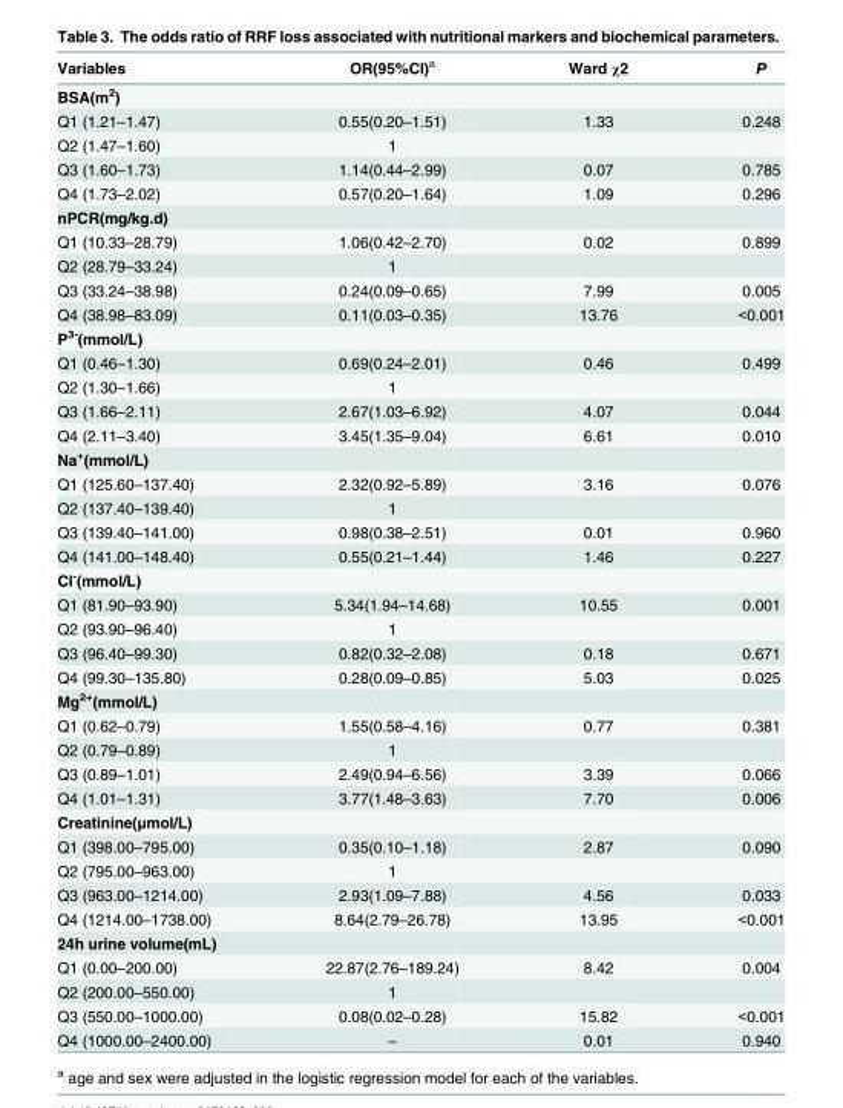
<table><thead><tr><td>Variables</td><td>OR(95%CI)<sup>a</sup></td><td>Ward χ2</td><td>P</td></tr></thead><tbody><tr><td colspan="4">BSA(m<sup>2</sup>)</td></tr><tr><td>Q1 (1.21–1.47)</td><td>0.55(0.20–1.51)</td><td>1.33</td><td>0.248</td></tr><tr><td>Q2 (1.47–1.60)</td><td>1</td><td></td><td></td></tr><tr><td>Q3 (1.60–1.73)</td><td>1.14(0.44–2.99)</td><td>0.07</td><td>0.785</td></tr><tr><td>Q4 (1.73–2.02)</td><td>0.57(0.20–1.64)</td><td>1.09</td><td>0.296</td></tr><tr><td colspan="4">nPCR(mg/kg.d)</td></tr><tr><td>Q1 (10.33–28.79)</td><td>1.06(0.42–2.70)</td><td>0.02</td><td>0.899</td></tr><tr><td>Q2 (28.79–33.24)</td><td>1</td><td></td><td></td></tr><tr><td>Q3 (33.24–38.98)</td><td>0.24(0.09–0.65)</td><td>7.99</td><td>0.005</td></tr><tr><td>Q4 (38.98–83.09)</td><td>0.11(0.03–0.35)</td><td>13.76</td><td>&lt;0.001</td></tr><tr><td colspan="4">P<sup>3-</sup>(mmol/L)</td></tr><tr><td>Q1 (0.46–1.30)</td><td>0.69(0.24–2.01)</td><td>0.46</td><td>0.499</td></tr><tr><td>Q2 (1.30–1.66)</td><td>1</td><td></td><td></td></tr><tr><td>Q3 (1.66–2.11)</td><td>2.67(1.03–6.92)</td><td>4.07</td><td>0.044</td></tr><tr><td>Q4 (2.11–3.40)</td><td>3.45(1.35–9.04)</td><td>6.61</td><td>0.010</td></tr><tr><td colspan="4">Na<sup>+</sup>(mmol/L)</td></tr><tr><td>Q1 (125.60–137.40)</td><td>2.32(0.92–5.89)</td><td>3.16</td><td>0.076</td></tr><tr><td>Q2 (137.40–139.40)</td><td>1</td><td></td><td></td></tr><tr><td>Q3 (139.40–141.00)</td><td>0.98(0.38–2.51)</td><td>0.01</td><td>0.960</td></tr><tr><td>Q4 (141.00–148.40)</td><td>0.55(0.21–1.44)</td><td>1.46</td><td>0.227</td></tr><tr><td colspan="4">Cl<sup>-</sup>(mmol/L)</td></tr><tr><td>Q1 (81.90–93.90)</td><td>5.34(1.94–14.68)</td><td>10.55</td><td>0.001</td></tr><tr><td>Q2 (93.90–96.40)</td><td>1</td><td></td><td></td></tr><tr><td>Q3 (96.40–99.30)</td><td>0.82(0.32–2.08)</td><td>0.18</td><td>0.671</td></tr><tr><td>Q4 (99.30–135.80)</td><td>0.28(0.09–0.85)</td><td>5.03</td><td>0.025</td></tr><tr><td colspan="4">Mg<sup>2+</sup>(mmol/L)</td></tr><tr><td>Q1 (0.62–0.79)</td><td>1.55(0.58–4.16)</td><td>0.77</td><td>0.381</td></tr><tr><td>Q2 (0.79–0.89)</td><td>1</td><td></td><td></td></tr><tr><td>Q3 (0.89–1.01)</td><td>2.49(0.94–6.56)</td><td>3.39</td><td>0.066</td></tr><tr><td>Q4 (1.01–1.31)</td><td>3.77(1.48–3.63)</td><td>7.70</td><td>0.006</td></tr><tr><td colspan="4">Creatinine(μmol/L)</td></tr><tr><td>Q1 (398.00–795.00)</td><td>0.35(0.10–1.18)</td><td>2.87</td><td>0.090</td></tr><tr><td>Q2 (795.00–963.00)</td><td>1</td><td></td><td></td></tr><tr><td>Q3 (963.00–1214.00)</td><td>2.93(1.09–7.88)</td><td>4.56</td><td>0.033</td></tr><tr><td>Q4 (1214.00–1738.00)</td><td>8.64(2.79–26.78)</td><td>13.95</td><td>&lt;0.001</td></tr><tr><td colspan="4">24h urine volume(mL)</td></tr><tr><td>Q1 (0.00–200.00)</td><td>22.87(2.76–189.24)</td><td>8.42</td><td>0.004</td></tr><tr><td>Q2 (200.00–550.00)</td><td>1</td><td></td><td></td></tr><tr><td>Q3 (550.00–1000.00)</td><td>0.08(0.02–0.28)</td><td>15.82</td><td>&lt;0.001</td></tr><tr><td>Q4 (1000.00–2400.00)</td><td>–</td><td>0.01</td><td>0.940</td></tr></tbody></table>